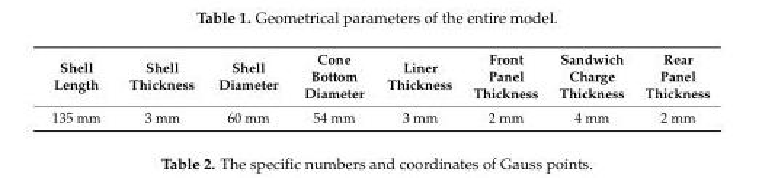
<table><thead><tr><td>Shell Length</td><td>Shell Thickness</td><td>Shell Diameter</td><td>Cone Bottom Diameter</td><td>Liner Thickness</td><td>Front Panel Thickness</td><td>Sandwich Charge Thickness</td><td>Rear Panel Thickness</td></tr></thead><tbody><tr><td>135 mm</td><td>3 mm</td><td>60 mm</td><td>54 mm</td><td>3 mm</td><td>2 mm</td><td>4 mm</td><td>2 mm</td></tr></tbody></table>